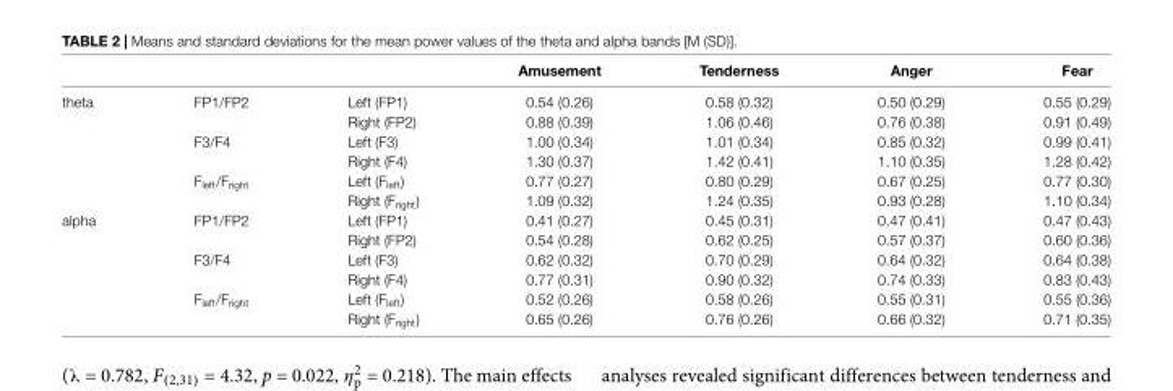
<table><thead><tr><td></td><td></td><td></td><td>Amusement</td><td>Tenderness</td><td>Anger</td><td>Fear</td></tr></thead><tbody><tr><td rowspan="6">theta</td><td>FP1/FP2</td><td>Left (FP1)</td><td>0.54 (0.26)</td><td>0.58 (0.32)</td><td>0.50 (0.29)</td><td>0.55 (0.29)</td></tr><tr><td></td><td>Right (FP2)</td><td>0.88 (0.39)</td><td>1.06 (0.46)</td><td>0.76 (0.38)</td><td>0.91 (0.49)</td></tr><tr><td>F3/F4</td><td>Left (F3)</td><td>1.00 (0.34)</td><td>1.01 (0.34)</td><td>0.85 (0.32)</td><td>0.99 (0.41)</td></tr><tr><td></td><td>Right (F4)</td><td>1.30 (0.37)</td><td>1.42 (0.41)</td><td>1.10 (0.35)</td><td>1.28 (0.42)</td></tr><tr><td>F<sub>left</sub>/F<sub>right</sub></td><td>Left (F<sub>left</sub>)</td><td>0.77 (0.27)</td><td>0.80 (0.29)</td><td>0.67 (0.25)</td><td>0.77 (0.30)</td></tr><tr><td></td><td>Right (F<sub>right</sub>)</td><td>1.09 (0.32)</td><td>1.24 (0.35)</td><td>0.93 (0.28)</td><td>1.10 (0.34)</td></tr><tr><td rowspan="6">alpha</td><td>FP1/FP2</td><td>Left (FP1)</td><td>0.41 (0.27)</td><td>0.45 (0.31)</td><td>0.47 (0.41)</td><td>0.47 (0.43)</td></tr><tr><td></td><td>Right (FP2)</td><td>0.54 (0.28)</td><td>0.62 (0.25)</td><td>0.57 (0.37)</td><td>0.60 (0.36)</td></tr><tr><td>F3/F4</td><td>Left (F3)</td><td>0.62 (0.32)</td><td>0.70 (0.29)</td><td>0.64 (0.32)</td><td>0.64 (0.38)</td></tr><tr><td></td><td>Right (F4)</td><td>0.77 (0.31)</td><td>0.90 (0.32)</td><td>0.74 (0.33)</td><td>0.83 (0.43)</td></tr><tr><td>F<sub>left</sub>/F<sub>right</sub></td><td>Left (F<sub>left</sub>)</td><td>0.52 (0.26)</td><td>0.58 (0.26)</td><td>0.55 (0.31)</td><td>0.55 (0.36)</td></tr><tr><td></td><td>Right (F<sub>right</sub>)</td><td>0.65 (0.26)</td><td>0.76 (0.26)</td><td>0.66 (0.32)</td><td>0.71 (0.35)</td></tr></tbody></table>